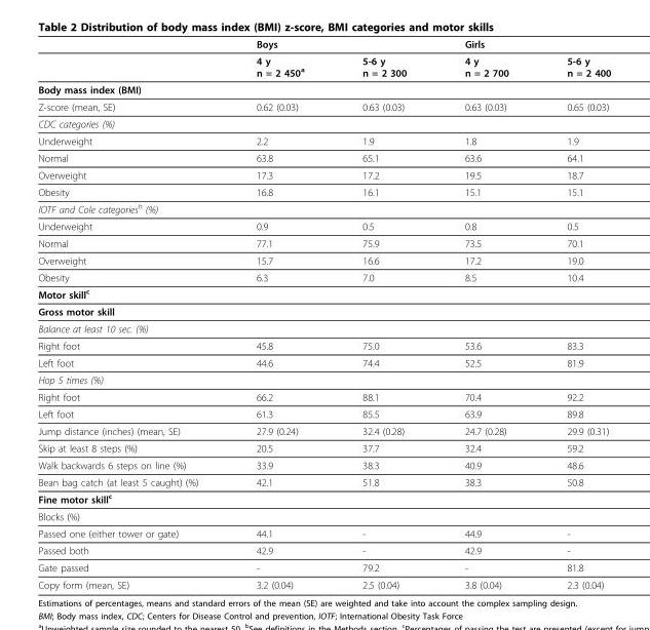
<table><thead><tr><td rowspan="2"></td><td colspan="2">Boys</td><td colspan="2">Girls</td></tr><tr><td>4 y n = 2 450<sup>a</sup></td><td>5-6 y n = 2 300</td><td>4 y n = 2 700</td><td>5-6 y n = 2 400</td></tr></thead><tbody><tr><td colspan="5">Body mass index (BMI)</td></tr><tr><td>Z-score (mean, SE)</td><td>0.62 (0.03)</td><td>0.63 (0.03)</td><td>0.63 (0.03)</td><td>0.65 (0.03)</td></tr><tr><td colspan="5">CDC categories (%)</td></tr><tr><td>Underweight</td><td>2.2</td><td>1.9</td><td>1.8</td><td>1.9</td></tr><tr><td>Normal</td><td>63.8</td><td>65.1</td><td>63.6</td><td>64.1</td></tr><tr><td>Overweight</td><td>17.3</td><td>17.2</td><td>19.5</td><td>18.7</td></tr><tr><td>Obesity</td><td>16.8</td><td>16.1</td><td>15.1</td><td>15.1</td></tr><tr><td colspan="5">IOTF and Cole categories<sup>b</sup> (%)</td></tr><tr><td>Underweight</td><td>0.9</td><td>0.5</td><td>0.8</td><td>0.5</td></tr><tr><td>Normal</td><td>77.1</td><td>75.9</td><td>73.5</td><td>70.1</td></tr><tr><td>Overweight</td><td>15.7</td><td>16.6</td><td>17.2</td><td>19.0</td></tr><tr><td>Obesity</td><td>6.3</td><td>7.0</td><td>8.5</td><td>10.4</td></tr><tr><td colspan="5">Motor skill<sup>c</sup></td></tr><tr><td colspan="5">Gross motor skill</td></tr><tr><td colspan="5">Balance at least 10 sec. (%)</td></tr><tr><td>Right foot</td><td>45.8</td><td>75.0</td><td>53.6</td><td>83.3</td></tr><tr><td>Left foot</td><td>44.6</td><td>74.4</td><td>52.5</td><td>81.9</td></tr><tr><td colspan="5">Hop 5 times (%)</td></tr><tr><td>Right foot</td><td>66.2</td><td>88.1</td><td>70.4</td><td>92.2</td></tr><tr><td>Left foot</td><td>61.3</td><td>85.5</td><td>63.9</td><td>89.8</td></tr><tr><td>Jump distance (inches) (mean, SE)</td><td>27.9 (0.24)</td><td>32.4 (0.28)</td><td>24.7 (0.28)</td><td>29.9 (0.31)</td></tr><tr><td>Skip at least 8 steps (%)</td><td>20.5</td><td>37.7</td><td>32.4</td><td>59.2</td></tr><tr><td>Walk backwards 6 steps on line (%)</td><td>33.9</td><td>38.3</td><td>40.9</td><td>48.6</td></tr><tr><td>Bean bag catch (at least 5 caught) (%)</td><td>42.1</td><td>51.8</td><td>38.3</td><td>50.8</td></tr><tr><td colspan="5">Fine motor skill<sup>c</sup></td></tr><tr><td colspan="5">Blocks (%)</td></tr><tr><td>Passed one (either tower or gate)</td><td>44.1</td><td>-</td><td>44.9</td><td>-</td></tr><tr><td>Passed both</td><td>42.9</td><td>-</td><td>42.9</td><td>-</td></tr><tr><td>Gate passed</td><td>-</td><td>79.2</td><td>-</td><td>81.8</td></tr><tr><td>Copy form (mean, SE)</td><td>3.2 (0.04)</td><td>2.5 (0.04)</td><td>3.8 (0.04)</td><td>2.3 (0.04)</td></tr></tbody></table>